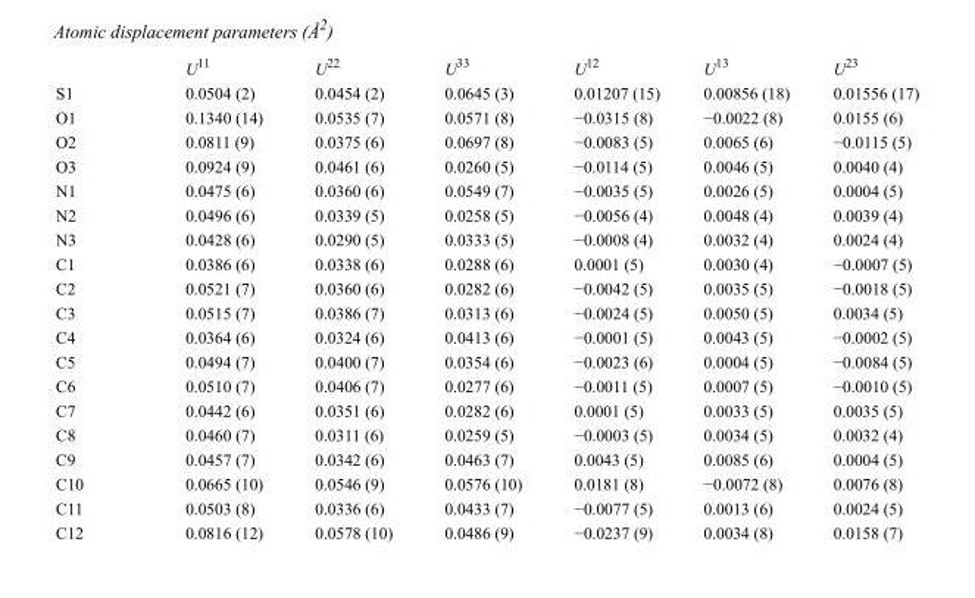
<table><thead><tr><td></td><td>U<sup>11</sup></td><td>U<sup>22</sup></td><td>U<sup>33</sup></td><td>U<sup>12</sup></td><td>U<sup>13</sup></td><td>U<sup>23</sup></td></tr></thead><tbody><tr><td>S1</td><td>0.0504 (2)</td><td>0.0454 (2)</td><td>0.0645 (3)</td><td>0.01207 (15)</td><td>0.00856 (18)</td><td>0.01556 (17)</td></tr><tr><td>O1</td><td>0.1340 (14)</td><td>0.0535 (7)</td><td>0.0571 (8)</td><td>−0.0315 (8)</td><td>−0.0022 (8)</td><td>0.0155 (6)</td></tr><tr><td>O2</td><td>0.0811 (9)</td><td>0.0375 (6)</td><td>0.0697 (8)</td><td>−0.0083 (5)</td><td>0.0065 (6)</td><td>−0.0115 (5)</td></tr><tr><td>O3</td><td>0.0924 (9)</td><td>0.0461 (6)</td><td>0.0260 (5)</td><td>−0.0114 (5)</td><td>0.0046 (5)</td><td>0.0040 (4)</td></tr><tr><td>N1</td><td>0.0475 (6)</td><td>0.0360 (6)</td><td>0.0549 (7)</td><td>−0.0035 (5)</td><td>0.0026 (5)</td><td>0.0004 (5)</td></tr><tr><td>N2</td><td>0.0496 (6)</td><td>0.0339 (5)</td><td>0.0258 (5)</td><td>−0.0056 (4)</td><td>0.0048 (4)</td><td>0.0039 (4)</td></tr><tr><td>N3</td><td>0.0428 (6)</td><td>0.0290 (5)</td><td>0.0333 (5)</td><td>−0.0008 (4)</td><td>0.0032 (4)</td><td>0.0024 (4)</td></tr><tr><td>C1</td><td>0.0386 (6)</td><td>0.0338 (6)</td><td>0.0288 (6)</td><td>0.0001 (5)</td><td>0.0030 (4)</td><td>−0.0007 (5)</td></tr><tr><td>C2</td><td>0.0521 (7)</td><td>0.0360 (6)</td><td>0.0282 (6)</td><td>−0.0042 (5)</td><td>0.0035 (5)</td><td>−0.0018 (5)</td></tr><tr><td>C3</td><td>0.0515 (7)</td><td>0.0386 (7)</td><td>0.0313 (6)</td><td>−0.0024 (5)</td><td>0.0050 (5)</td><td>0.0034 (5)</td></tr><tr><td>C4</td><td>0.0364 (6)</td><td>0.0324 (6)</td><td>0.0413 (6)</td><td>−0.0001 (5)</td><td>0.0043 (5)</td><td>−0.0002 (5)</td></tr><tr><td>C5</td><td>0.0494 (7)</td><td>0.0400 (7)</td><td>0.0354 (6)</td><td>−0.0023 (6)</td><td>0.0004 (5)</td><td>−0.0084 (5)</td></tr><tr><td>C6</td><td>0.0510 (7)</td><td>0.0406 (7)</td><td>0.0277 (6)</td><td>−0.0011 (5)</td><td>0.0007 (5)</td><td>−0.0010 (5)</td></tr><tr><td>C7</td><td>0.0442 (6)</td><td>0.0351 (6)</td><td>0.0282 (6)</td><td>0.0001 (5)</td><td>0.0033 (5)</td><td>0.0035 (5)</td></tr><tr><td>C8</td><td>0.0460 (7)</td><td>0.0311 (6)</td><td>0.0259 (5)</td><td>−0.0003 (5)</td><td>0.0034 (5)</td><td>0.0032 (4)</td></tr><tr><td>C9</td><td>0.0457 (7)</td><td>0.0342 (6)</td><td>0.0463 (7)</td><td>0.0043 (5)</td><td>0.0085 (6)</td><td>0.0004 (5)</td></tr><tr><td>C10</td><td>0.0665 (10)</td><td>0.0546 (9)</td><td>0.0576 (10)</td><td>0.0181 (8)</td><td>−0.0072 (8)</td><td>0.0076 (8)</td></tr><tr><td>C11</td><td>0.0503 (8)</td><td>0.0336 (6)</td><td>0.0433 (7)</td><td>−0.0077 (5)</td><td>0.0013 (6)</td><td>0.0024 (5)</td></tr><tr><td>C12</td><td>0.0816 (12)</td><td>0.0578 (10)</td><td>0.0486 (9)</td><td>−0.0237 (9)</td><td>0.0034 (8)</td><td>0.0158 (7)</td></tr></tbody></table>